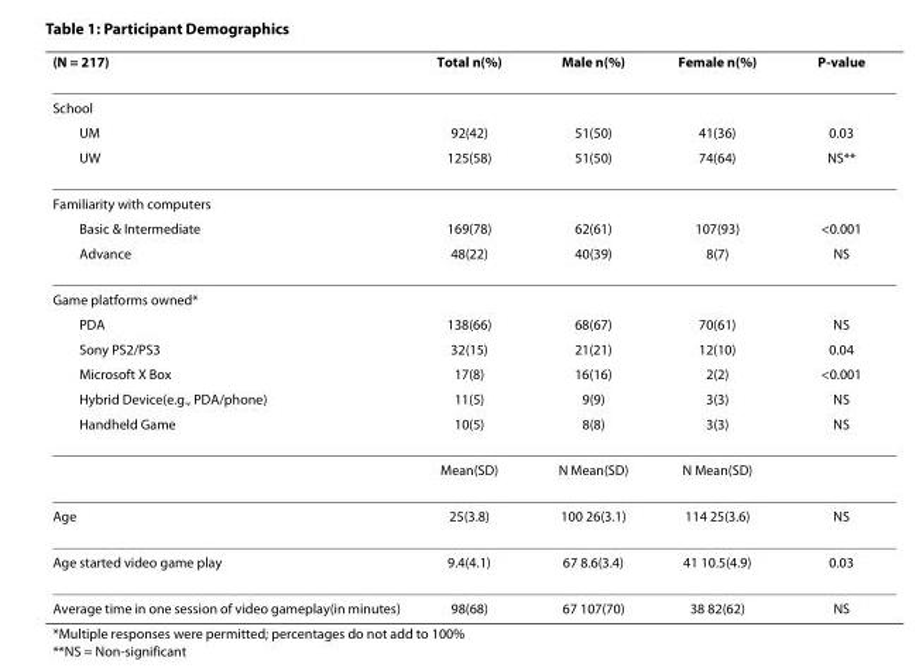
<table><thead><tr><td>(N = 217)</td><td>Total n(%)</td><td>Male n(%)</td><td>Female n(%)</td><td>P-value</td></tr></thead><tbody><tr><td colspan="5">School</td></tr><tr><td>UM</td><td>92(42)</td><td>51(50)</td><td>41(36)</td><td>0.03</td></tr><tr><td>UW</td><td>125(58)</td><td>51(50)</td><td>74(64)</td><td>NS**</td></tr><tr><td colspan="5">Familiarity with computers</td></tr><tr><td>Basic &amp; Intermediate</td><td>169(78)</td><td>62(61)</td><td>107(93)</td><td>&lt;0.001</td></tr><tr><td>Advance</td><td>48(22)</td><td>40(39)</td><td>8(7)</td><td>NS</td></tr><tr><td colspan="5">Game platforms owned*</td></tr><tr><td>PDA</td><td>138(66)</td><td>68(67)</td><td>70(61)</td><td>NS</td></tr><tr><td>Sony PS2/PS3</td><td>32(15)</td><td>21(21)</td><td>12(10)</td><td>0.04</td></tr><tr><td>Microsoft X Box</td><td>17(8)</td><td>16(16)</td><td>2(2)</td><td>&lt;0.001</td></tr><tr><td>Hybrid Device(e.g., PDA/phone)</td><td>11(5)</td><td>9(9)</td><td>3(3)</td><td>NS</td></tr><tr><td rowspan="2">Handheld Game</td><td>10(5)</td><td>8(8)</td><td>3(3)</td><td>NS</td></tr><tr><td>Mean(SD)</td><td>N Mean(SD)</td><td>N Mean(SD)</td><td></td></tr><tr><td>Age</td><td>25(3.8)</td><td>100 26(3.1)</td><td>114 25(3.6)</td><td>NS</td></tr><tr><td>Age started video game play</td><td>9.4(4.1)</td><td>67 8.6(3.4)</td><td>41 10.5(4.9)</td><td>0.03</td></tr><tr><td>Average time in one session of video gameplay(in minutes)</td><td>98(68)</td><td>67 107(70)</td><td>38 82(62)</td><td>NS</td></tr></tbody></table>